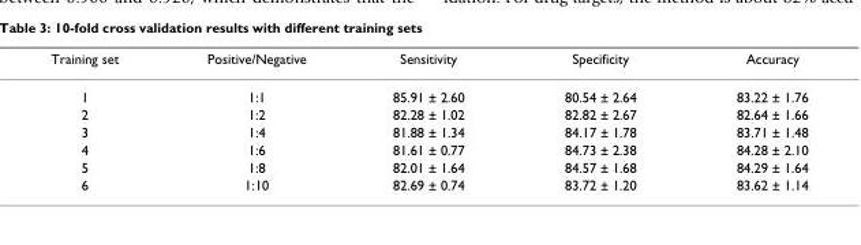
<table><thead><tr><td>Training set</td><td>Positive/Negative</td><td>Sensitivity</td><td>Specificity</td><td>Accuracy</td></tr></thead><tbody><tr><td>1</td><td>1:1</td><td>85.91 ± 2.60</td><td>80.54 ± 2.64</td><td>83.22 ± 1.76</td></tr><tr><td>2</td><td>1:2</td><td>82.28 ± 1.02</td><td>82.82 ± 2.67</td><td>82.64 ± 1.66</td></tr><tr><td>3</td><td>1:4</td><td>81.88 ± 1.34</td><td>84.17 ± 1.78</td><td>83.71 ± 1.48</td></tr><tr><td>4</td><td>1:6</td><td>81.61 ± 0.77</td><td>84.73 ± 2.38</td><td>84.28 ± 2.10</td></tr><tr><td>5</td><td>1:8</td><td>82.01 ± 1.64</td><td>84.57 ± 1.68</td><td>84.29 ± 1.64</td></tr><tr><td>6</td><td>1:10</td><td>82.69 ± 0.74</td><td>83.72 ± 1.20</td><td>83.62 ± 1.14</td></tr></tbody></table>